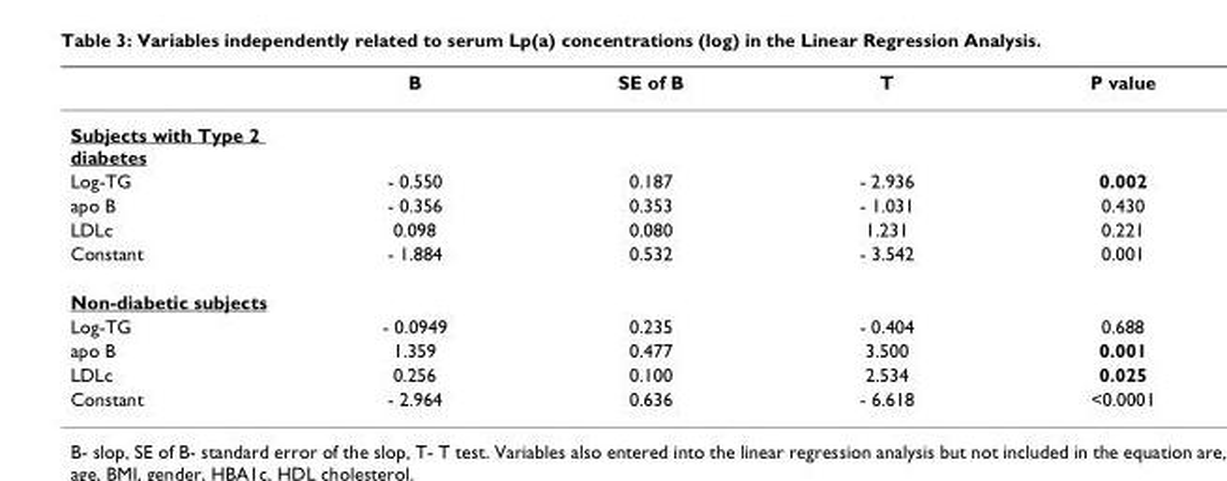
<table><thead><tr><td></td><td>B</td><td>SE of B</td><td>T</td><td>P value</td></tr></thead><tbody><tr><td colspan="5">Subjects with Type 2 diabetes</td></tr><tr><td>Log-TG</td><td>- 0.550</td><td>0.187</td><td>- 2.936</td><td>0.002</td></tr><tr><td>apo B</td><td>- 0.356</td><td>0.353</td><td>- 1.031</td><td>0.430</td></tr><tr><td>LDLc</td><td>0.098</td><td>0.080</td><td>1.231</td><td>0.221</td></tr><tr><td>Constant</td><td>- 1.884</td><td>0.532</td><td>- 3.542</td><td>0.001</td></tr><tr><td colspan="5">Non-diabetic subjects</td></tr><tr><td>Log-TG</td><td>- 0.0949</td><td>0.235</td><td>- 0.404</td><td>0.688</td></tr><tr><td>apo B</td><td>1.359</td><td>0.477</td><td>3.500</td><td>0.001</td></tr><tr><td>LDLc</td><td>0.256</td><td>0.100</td><td>2.534</td><td>0.025</td></tr><tr><td>Constant</td><td>- 2.964</td><td>0.636</td><td>- 6.618</td><td>&lt;0.0001</td></tr></tbody></table>